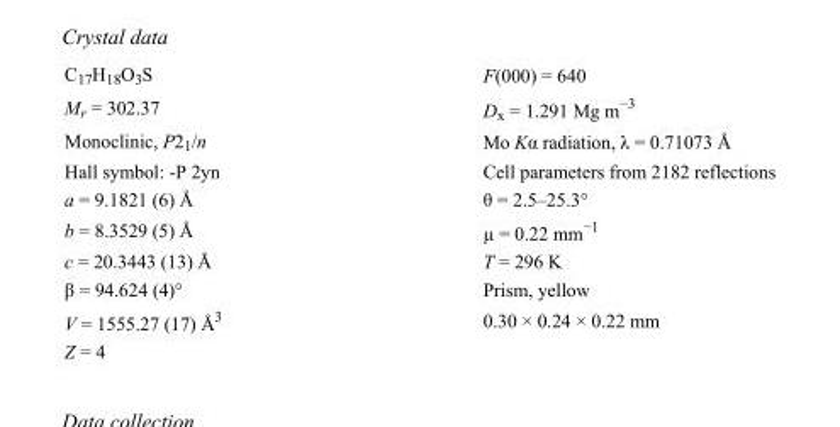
<table><tbody><tr><td>C<sub>17</sub>H<sub>18</sub>O<sub>3</sub>S</td><td>F(000) = 640</td></tr><tr><td>M<sub>r</sub> = 302.37</td><td>D<sub>x</sub> = 1.291 Mg m<sup>−3</sup></td></tr><tr><td>Monoclinic, P2<sub>1</sub>/n</td><td>Mo Kα radiation, λ = 0.71073 Å</td></tr><tr><td>Hall symbol: -P 2yn</td><td>Cell parameters from 2182 reflections</td></tr><tr><td>a = 9.1821 (6) Å</td><td>θ = 2.5–25.3°</td></tr><tr><td>b = 8.3529 (5) Å</td><td>µ = 0.22 mm<sup>−1</sup></td></tr><tr><td>c = 20.3443 (13) Å</td><td>T = 296 K</td></tr><tr><td>β = 94.624 (4)°</td><td>Prism, yellow</td></tr><tr><td>V = 1555.27 (17) Å<sup>3</sup></td><td>0.30 × 0.24 × 0.22 mm</td></tr><tr><td>Z = 4</td><td></td></tr></tbody></table>